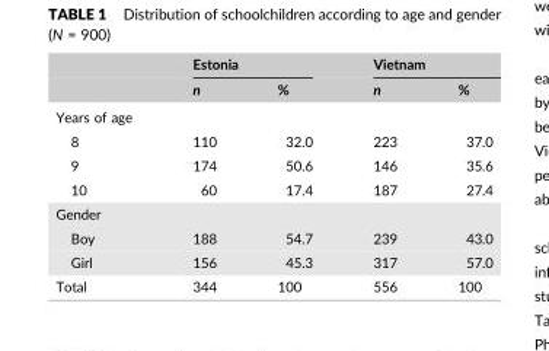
<table><thead><tr><td rowspan="2"></td><td colspan="2">Estonia</td><td colspan="2">Vietnam</td></tr><tr><td>n</td><td>%</td><td>n</td><td>%</td></tr></thead><tbody><tr><td colspan="5">Years of age</td></tr><tr><td>8</td><td>110</td><td>32.0</td><td>223</td><td>37.0</td></tr><tr><td>9</td><td>174</td><td>50.6</td><td>146</td><td>35.6</td></tr><tr><td>10</td><td>60</td><td>17.4</td><td>187</td><td>27.4</td></tr><tr><td colspan="5">Gender</td></tr><tr><td>Boy</td><td>188</td><td>54.7</td><td>239</td><td>43.0</td></tr><tr><td>Girl</td><td>156</td><td>45.3</td><td>317</td><td>57.0</td></tr><tr><td>Total</td><td>344</td><td>100</td><td>556</td><td>100</td></tr></tbody></table>